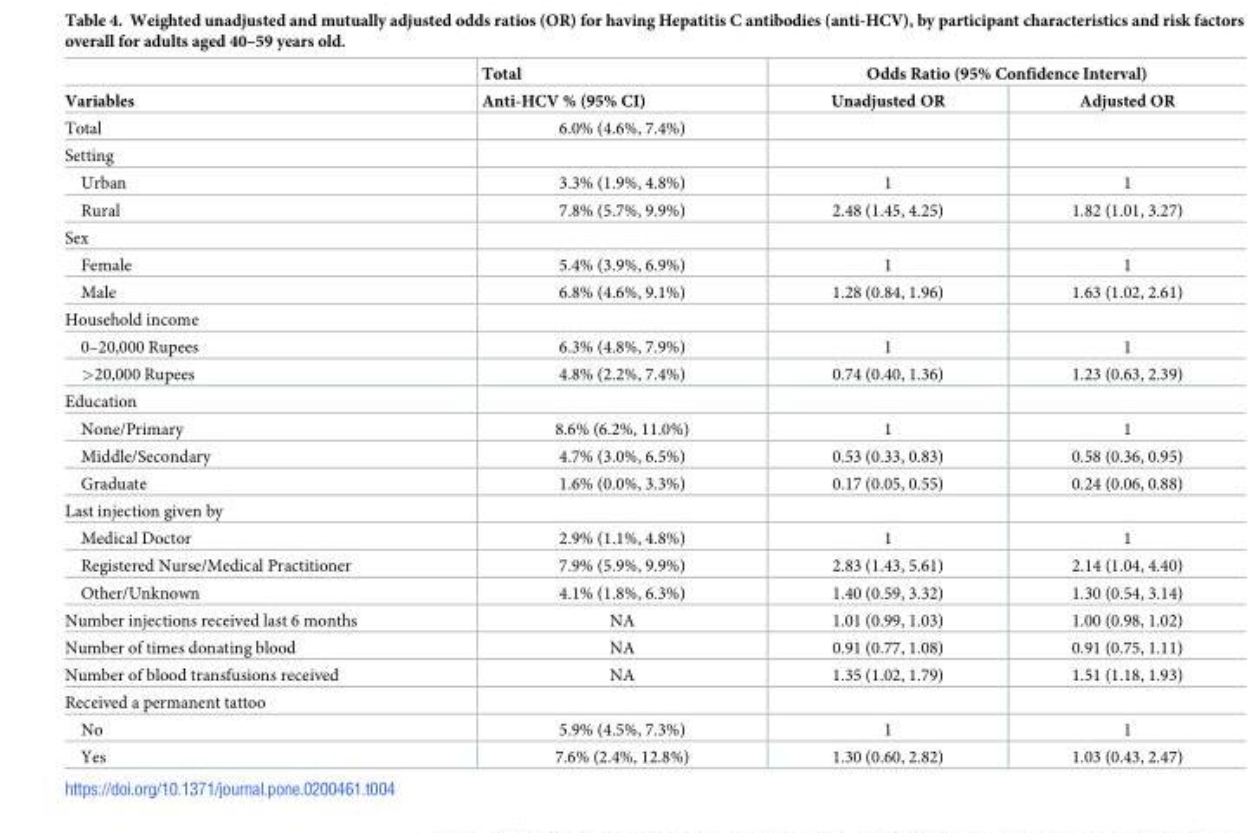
<table><thead><tr><td rowspan="2">Variables</td><td rowspan="2">Total Anti-HCV % (95% CI)</td><td colspan="2">Odds Ratio (95% Confidence Interval)</td></tr><tr><td>Unadjusted OR</td><td>Adjusted OR</td></tr></thead><tbody><tr><td>Total</td><td>6.0% (4.6%, 7.4%)</td><td></td><td></td></tr><tr><td colspan="4">Setting</td></tr><tr><td>Urban</td><td>3.3% (1.9%, 4.8%)</td><td>1</td><td>1</td></tr><tr><td>Rural</td><td>7.8% (5.7%, 9.9%)</td><td>2.48 (1.45, 4.25)</td><td>1.82 (1.01, 3.27)</td></tr><tr><td colspan="4">Sex</td></tr><tr><td>Female</td><td>5.4% (3.9%, 6.9%)</td><td>1</td><td>1</td></tr><tr><td>Male</td><td>6.8% (4.6%, 9.1%)</td><td>1.28 (0.84, 1.96)</td><td>1.63 (1.02, 2.61)</td></tr><tr><td colspan="4">Household income</td></tr><tr><td>0–20,000 Rupees</td><td>6.3% (4.8%, 7.9%)</td><td>1</td><td>1</td></tr><tr><td>&gt;20,000 Rupees</td><td>4.8% (2.2%, 7.4%)</td><td>0.74 (0.40, 1.36)</td><td>1.23 (0.63, 2.39)</td></tr><tr><td colspan="4">Education</td></tr><tr><td>None/Primary</td><td>8.6% (6.2%, 11.0%)</td><td>1</td><td>1</td></tr><tr><td>Middle/Secondary</td><td>4.7% (3.0%, 6.5%)</td><td>0.53 (0.33, 0.83)</td><td>0.58 (0.36, 0.95)</td></tr><tr><td>Graduate</td><td>1.6% (0.0%, 3.3%)</td><td>0.17 (0.05, 0.55)</td><td>0.24 (0.06, 0.88)</td></tr><tr><td colspan="4">Last injection given by</td></tr><tr><td>Medical Doctor</td><td>2.9% (1.1%, 4.8%)</td><td>1</td><td>1</td></tr><tr><td>Registered Nurse/Medical Practitioner</td><td>7.9% (5.9%, 9.9%)</td><td>2.83 (1.43, 5.61)</td><td>2.14 (1.04, 4.40)</td></tr><tr><td>Other/Unknown</td><td>4.1% (1.8%, 6.3%)</td><td>1.40 (0.59, 3.32)</td><td>1.30 (0.54, 3.14)</td></tr><tr><td>Number injections received last 6 months</td><td>NA</td><td>1.01 (0.99, 1.03)</td><td>1.00 (0.98, 1.02)</td></tr><tr><td>Number of times donating blood</td><td>NA</td><td>0.91 (0.77, 1.08)</td><td>0.91 (0.75, 1.11)</td></tr><tr><td>Number of blood transfusions received</td><td>NA</td><td>1.35 (1.02, 1.79)</td><td>1.51 (1.18, 1.93)</td></tr><tr><td colspan="4">Received a permanent tattoo</td></tr><tr><td>No</td><td>5.9% (4.5%, 7.3%)</td><td>1</td><td>1</td></tr><tr><td>Yes</td><td>7.6% (2.4%, 12.8%)</td><td>1.30 (0.60, 2.82)</td><td>1.03 (0.43, 2.47)</td></tr></tbody></table>